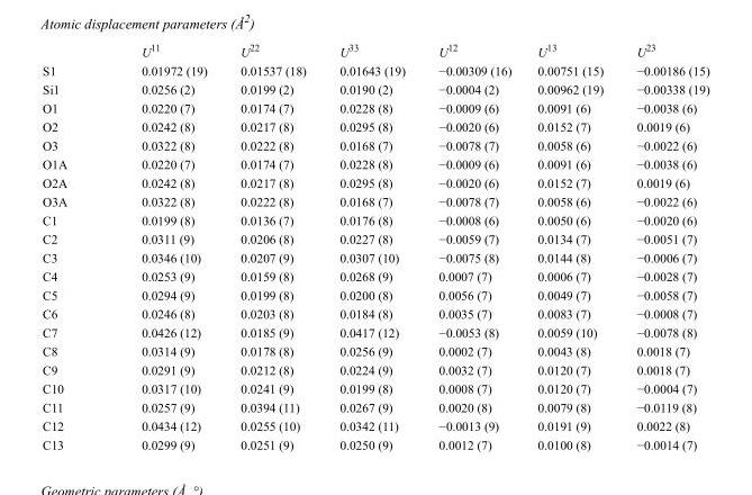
<table><thead><tr><td></td><td>U<sup>11</sup></td><td>U<sup>22</sup></td><td>U<sup>33</sup></td><td>U<sup>12</sup></td><td>U<sup>13</sup></td><td>U<sup>23</sup></td></tr></thead><tbody><tr><td>S1</td><td>0.01972 (19)</td><td>0.01537 (18)</td><td>0.01643 (19)</td><td>−0.00309 (16)</td><td>0.00751 (15)</td><td>−0.00186 (15)</td></tr><tr><td>Si1</td><td>0.0256 (2)</td><td>0.0199 (2)</td><td>0.0190 (2)</td><td>−0.0004 (2)</td><td>0.00962 (19)</td><td>−0.00338 (19)</td></tr><tr><td>O1</td><td>0.0220 (7)</td><td>0.0174 (7)</td><td>0.0228 (8)</td><td>−0.0009 (6)</td><td>0.0091 (6)</td><td>−0.0038 (6)</td></tr><tr><td>O2</td><td>0.0242 (8)</td><td>0.0217 (8)</td><td>0.0295 (8)</td><td>−0.0020 (6)</td><td>0.0152 (7)</td><td>0.0019 (6)</td></tr><tr><td>O3</td><td>0.0322 (8)</td><td>0.0222 (8)</td><td>0.0168 (7)</td><td>−0.0078 (7)</td><td>0.0058 (6)</td><td>−0.0022 (6)</td></tr><tr><td>O1A</td><td>0.0220 (7)</td><td>0.0174 (7)</td><td>0.0228 (8)</td><td>−0.0009 (6)</td><td>0.0091 (6)</td><td>−0.0038 (6)</td></tr><tr><td>O2A</td><td>0.0242 (8)</td><td>0.0217 (8)</td><td>0.0295 (8)</td><td>−0.0020 (6)</td><td>0.0152 (7)</td><td>0.0019 (6)</td></tr><tr><td>O3A</td><td>0.0322 (8)</td><td>0.0222 (8)</td><td>0.0168 (7)</td><td>−0.0078 (7)</td><td>0.0058 (6)</td><td>−0.0022 (6)</td></tr><tr><td>C1</td><td>0.0199 (8)</td><td>0.0136 (7)</td><td>0.0176 (8)</td><td>−0.0008 (6)</td><td>0.0050 (6)</td><td>−0.0020 (6)</td></tr><tr><td>C2</td><td>0.0311 (9)</td><td>0.0206 (8)</td><td>0.0227 (8)</td><td>−0.0059 (7)</td><td>0.0134 (7)</td><td>−0.0051 (7)</td></tr><tr><td>C3</td><td>0.0346 (10)</td><td>0.0207 (9)</td><td>0.0307 (10)</td><td>−0.0075 (8)</td><td>0.0144 (8)</td><td>−0.0006 (7)</td></tr><tr><td>C4</td><td>0.0253 (9)</td><td>0.0159 (8)</td><td>0.0268 (9)</td><td>0.0007 (7)</td><td>0.0006 (7)</td><td>−0.0028 (7)</td></tr><tr><td>C5</td><td>0.0294 (9)</td><td>0.0199 (8)</td><td>0.0200 (8)</td><td>0.0056 (7)</td><td>0.0049 (7)</td><td>−0.0058 (7)</td></tr><tr><td>C6</td><td>0.0246 (8)</td><td>0.0203 (8)</td><td>0.0184 (8)</td><td>0.0035 (7)</td><td>0.0083 (7)</td><td>−0.0008 (7)</td></tr><tr><td>C7</td><td>0.0426 (12)</td><td>0.0185 (9)</td><td>0.0417 (12)</td><td>−0.0053 (8)</td><td>0.0059 (10)</td><td>−0.0078 (8)</td></tr><tr><td>C8</td><td>0.0314 (9)</td><td>0.0178 (8)</td><td>0.0256 (9)</td><td>0.0002 (7)</td><td>0.0043 (8)</td><td>0.0018 (7)</td></tr><tr><td>C9</td><td>0.0291 (9)</td><td>0.0212 (8)</td><td>0.0224 (9)</td><td>0.0032 (7)</td><td>0.0120 (7)</td><td>0.0018 (7)</td></tr><tr><td>C10</td><td>0.0317 (10)</td><td>0.0241 (9)</td><td>0.0199 (8)</td><td>0.0008 (7)</td><td>0.0120 (7)</td><td>−0.0004 (7)</td></tr><tr><td>C11</td><td>0.0257 (9)</td><td>0.0394 (11)</td><td>0.0267 (9)</td><td>0.0020 (8)</td><td>0.0079 (8)</td><td>−0.0119 (8)</td></tr><tr><td>C12</td><td>0.0434 (12)</td><td>0.0255 (10)</td><td>0.0342 (11)</td><td>−0.0013 (9)</td><td>0.0191 (9)</td><td>0.0022 (8)</td></tr><tr><td>C13</td><td>0.0299 (9)</td><td>0.0251 (9)</td><td>0.0250 (9)</td><td>0.0012 (7)</td><td>0.0100 (8)</td><td>−0.0014 (7)</td></tr></tbody></table>